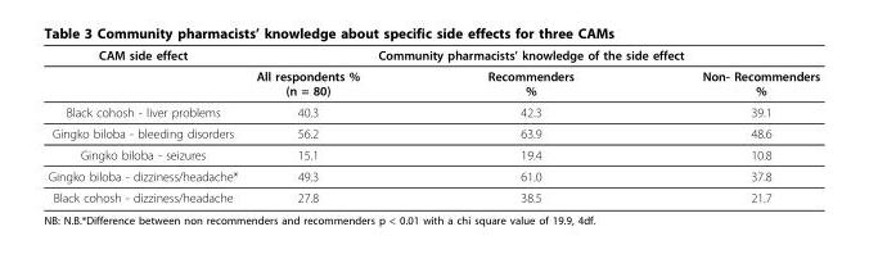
<table><thead><tr><td>CAM side effect</td><td></td><td>Community pharmacists’ knowledge of the side effect</td><td></td></tr></thead><tbody><tr><td></td><td>All respondents % (n = 80)</td><td>Recommenders %</td><td>Non- Recommenders %</td></tr><tr><td>Black cohosh - liver problems</td><td>40.3</td><td>42.3</td><td>39.1</td></tr><tr><td>Gingko biloba - bleeding disorders</td><td>56.2</td><td>63.9</td><td>48.6</td></tr><tr><td>Gingko biloba - seizures</td><td>15.1</td><td>19.4</td><td>10.8</td></tr><tr><td>Gingko biloba - dizziness/headache*</td><td>49.3</td><td>61.0</td><td>37.8</td></tr><tr><td>Black cohosh - dizziness/headache</td><td>27.8</td><td>38.5</td><td>21.7</td></tr></tbody></table>